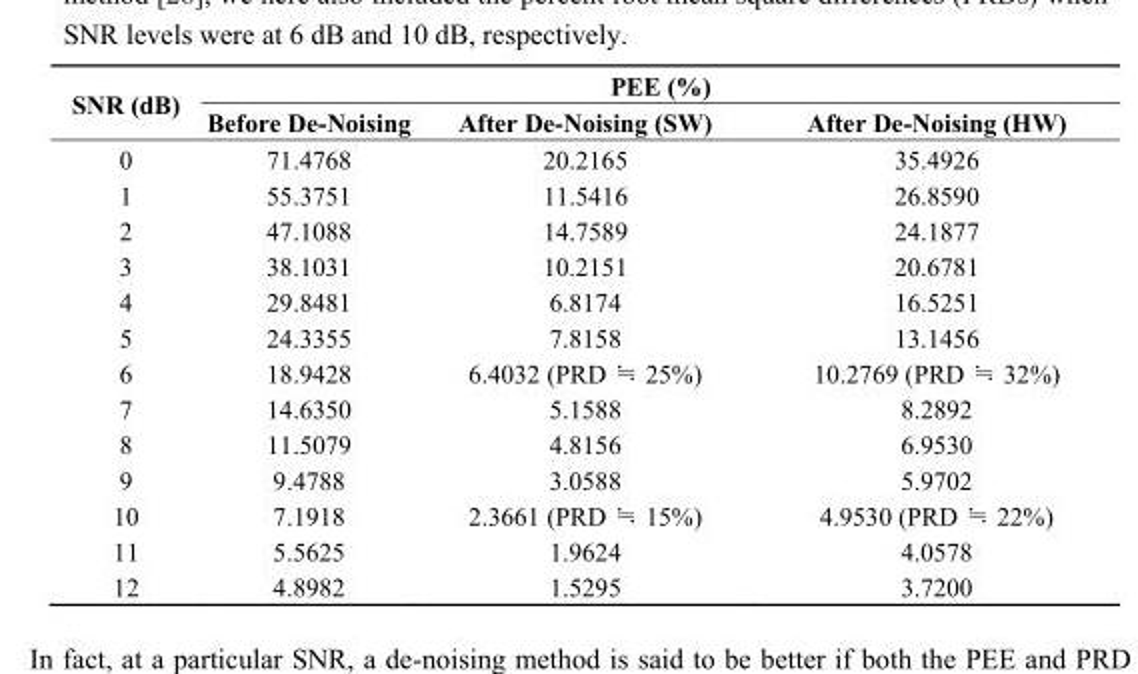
<table><thead><tr><td rowspan="2">SNR (dB)</td><td colspan="3">PEE (%)</td></tr><tr><td>Before De-Noising</td><td>After De-Noising (SW)</td><td>After De-Noising (HW)</td></tr></thead><tbody><tr><td>0</td><td>71.4768</td><td>20.2165</td><td>35.4926</td></tr><tr><td>1</td><td>55.3751</td><td>11.5416</td><td>26.8590</td></tr><tr><td>2</td><td>47.1088</td><td>14.7589</td><td>24.1877</td></tr><tr><td>3</td><td>38.1031</td><td>10.2151</td><td>20.6781</td></tr><tr><td>4</td><td>29.8481</td><td>6.8174</td><td>16.5251</td></tr><tr><td>5</td><td>24.3355</td><td>7.8158</td><td>13.1456</td></tr><tr><td>6</td><td>18.9428</td><td>6.4032 (PRD ≒ 25%)</td><td>10.2769 (PRD ≒ 32%)</td></tr><tr><td>7</td><td>14.6350</td><td>5.1588</td><td>8.2892</td></tr><tr><td>8</td><td>11.5079</td><td>4.8156</td><td>6.9530</td></tr><tr><td>9</td><td>9.4788</td><td>3.0588</td><td>5.9702</td></tr><tr><td>10</td><td>7.1918</td><td>2.3661 (PRD ≒ 15%)</td><td>4.9530 (PRD ≒ 22%)</td></tr><tr><td>11</td><td>5.5625</td><td>1.9624</td><td>4.0578</td></tr><tr><td>12</td><td>4.8982</td><td>1.5295</td><td>3.7200</td></tr></tbody></table>